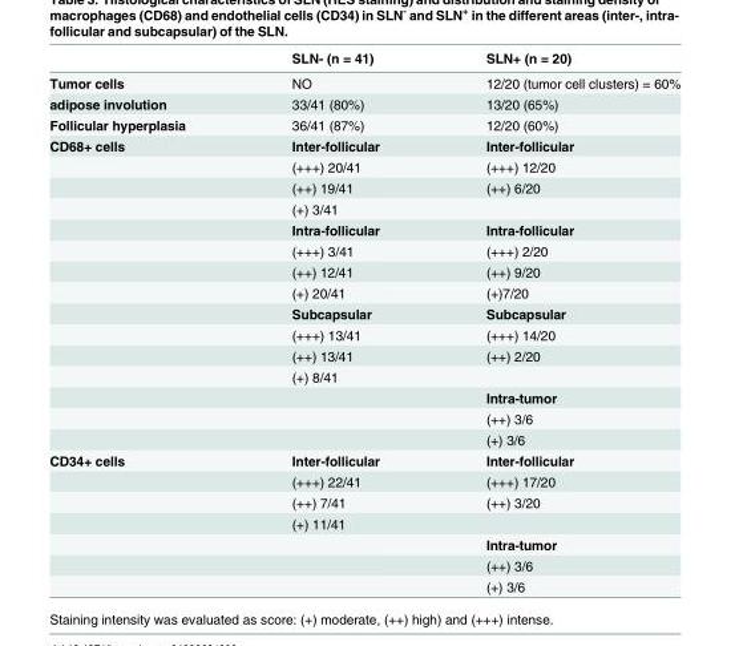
<table><thead><tr><td></td><td>SLN- (n = 41)</td><td>SLN+ (n = 20)</td></tr></thead><tbody><tr><td>Tumor cells</td><td>NO</td><td>12/20 (tumor cell clusters) = 60%</td></tr><tr><td>adipose involution</td><td>33/41 (80%)</td><td>13/20 (65%)</td></tr><tr><td>Follicular hyperplasia</td><td>36/41 (87%)</td><td>12/20 (60%)</td></tr><tr><td rowspan="15">CD68+ cells</td><td>Inter-follicular</td><td>Inter-follicular</td></tr><tr><td>(+++) 20/41</td><td>(+++) 12/20</td></tr><tr><td>(++) 19/41</td><td>(++) 6/20</td></tr><tr><td>(+) 3/41</td><td></td></tr><tr><td>Intra-follicular</td><td>Intra-follicular</td></tr><tr><td>(+++) 3/41</td><td>(+++) 2/20</td></tr><tr><td>(++) 12/41</td><td>(++) 9/20</td></tr><tr><td>(+) 20/41</td><td>(+)7/20</td></tr><tr><td>Subcapsular</td><td>Subcapsular</td></tr><tr><td>(+++) 13/41</td><td>(+++) 14/20</td></tr><tr><td>(++) 13/41</td><td>(++) 2/20</td></tr><tr><td>(+) 8/41</td><td></td></tr><tr><td></td><td>Intra-tumor</td></tr><tr><td></td><td>(++) 3/6</td></tr><tr><td></td><td>(+) 3/6</td></tr><tr><td rowspan="7">CD34+ cells</td><td>Inter-follicular</td><td>Inter-follicular</td></tr><tr><td>(+++) 22/41</td><td>(+++) 17/20</td></tr><tr><td>(++) 7/41</td><td>(++) 3/20</td></tr><tr><td>(+) 11/41</td><td></td></tr><tr><td></td><td>Intra-tumor</td></tr><tr><td></td><td>(++) 3/6</td></tr><tr><td></td><td>(+) 3/6</td></tr></tbody></table>